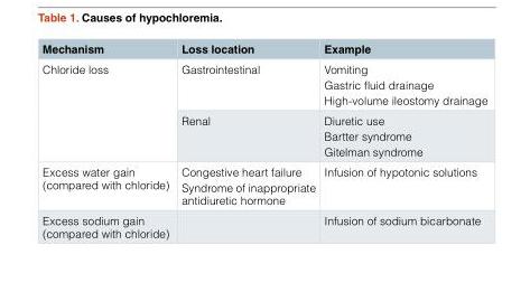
<table><thead><tr><td>Mechanism</td><td>Loss location</td><td>Example</td></tr></thead><tbody><tr><td rowspan="2">Chloride loss</td><td>Gastrointestinal</td><td>Vomiting Gastric fluid drainage High-volume ileostomy drainage</td></tr><tr><td>Renal</td><td>Diuretic use Bartter syndrome Gitelman syndrome</td></tr><tr><td>Excess water gain (compared with chloride)</td><td>Congestive heart failure Syndrome of inappropriate antidiuretic hormone</td><td>Infusion of hypotonic solutions</td></tr><tr><td>Excess sodium gain (compared with chloride)</td><td></td><td>Infusion of sodium bicarbonate</td></tr></tbody></table>